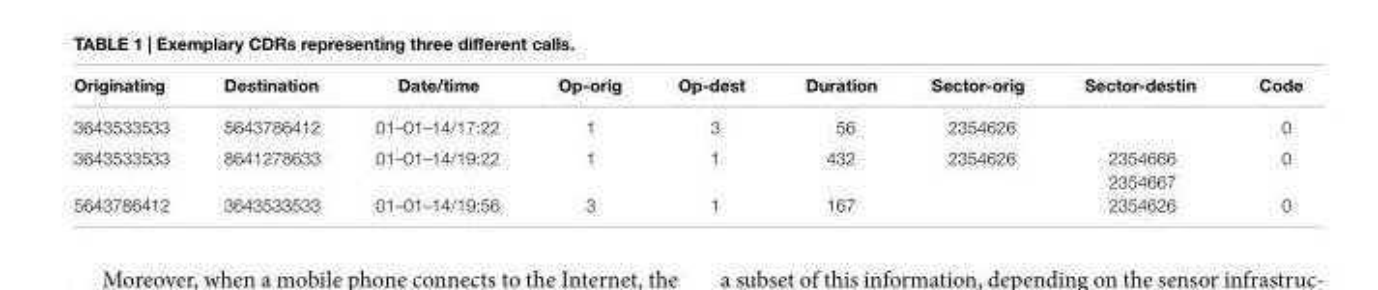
<table><thead><tr><td>originating</td><td>Destination</td><td>Date/time</td><td>op-orig</td><td>op-dest</td><td>Duration</td><td>Sector-orig</td><td>Sector-destin</td><td>code</td></tr></thead><tbody><tr><td>3643533533</td><td>5643786412</td><td>01–01–14/17:22</td><td>1</td><td>3</td><td>56</td><td>2354626</td><td></td><td>0</td></tr><tr><td rowspan="2">3643533533</td><td rowspan="2">8641278633</td><td rowspan="2">01–01–14/19:22</td><td rowspan="2">1</td><td rowspan="2">1</td><td rowspan="2">432</td><td rowspan="2">2354626</td><td>2354666</td><td rowspan="2">0</td></tr><tr><td>2354667</td></tr><tr><td>5643786412</td><td>3643533533</td><td>01–01–14/19:56</td><td>3</td><td>1</td><td>167</td><td></td><td>2354626</td><td>0</td></tr></tbody></table>